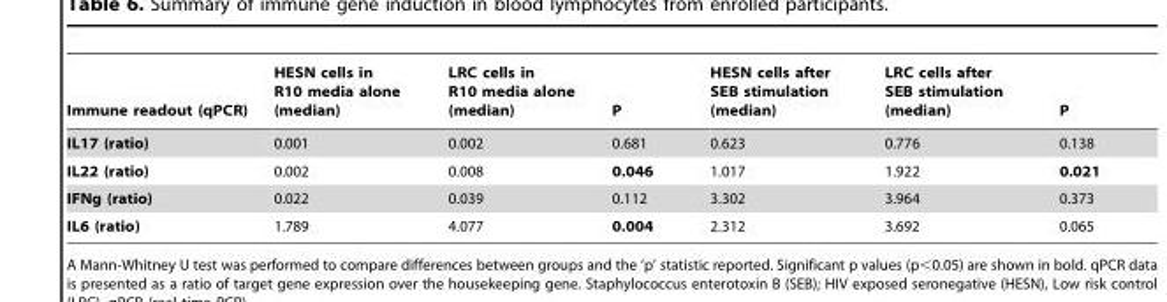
<table><thead><tr><td>Immune readout (qPCR)</td><td>HESN cells in R10 media alone (median)</td><td>LRC cells in R10 media alone (median)</td><td>P</td><td>HESN cells after SEB stimulation (median)</td><td>LRC cells after SEB stimulation (median)</td><td>P</td></tr></thead><tbody><tr><td>IL17 (ratio)</td><td>0.001</td><td>0.002</td><td>0.681</td><td>0.623</td><td>0.776</td><td>0.138</td></tr><tr><td>IL22 (ratio)</td><td>0.002</td><td>0.008</td><td>0.046</td><td>1.017</td><td>1.922</td><td>0.021</td></tr><tr><td>IFNg (ratio)</td><td>0.022</td><td>0.039</td><td>0.112</td><td>3.302</td><td>3.964</td><td>0.373</td></tr><tr><td>IL6 (ratio)</td><td>1.789</td><td>4.077</td><td>0.004</td><td>2.312</td><td>3.692</td><td>0.065</td></tr></tbody></table>